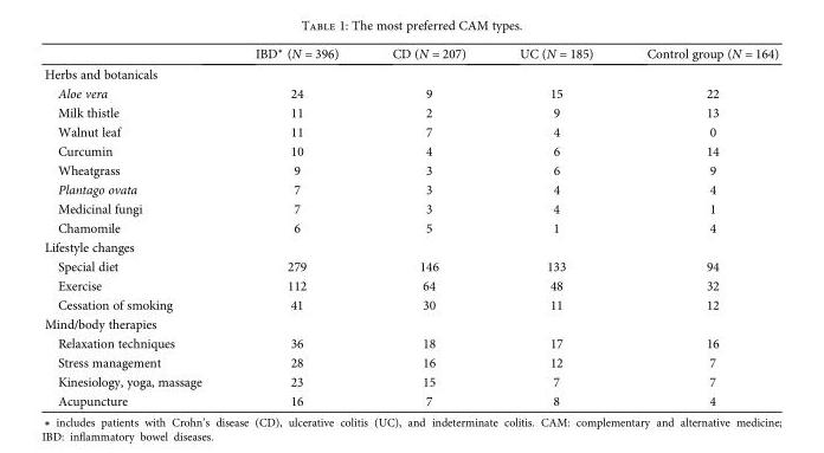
<table><thead><tr><td></td><td>IBD∗ (N = 396)</td><td>CD (N = 207)</td><td>UC (N = 185)</td><td>Control group (N = 164)</td></tr></thead><tbody><tr><td colspan="5">Herbs and botanicals</td></tr><tr><td>Aloe vera</td><td>24</td><td>9</td><td>15</td><td>22</td></tr><tr><td>Milk thistle</td><td>11</td><td>2</td><td>9</td><td>13</td></tr><tr><td>Walnut leaf</td><td>11</td><td>7</td><td>4</td><td>0</td></tr><tr><td>Curcumin</td><td>10</td><td>4</td><td>6</td><td>14</td></tr><tr><td>Wheatgrass</td><td>9</td><td>3</td><td>6</td><td>9</td></tr><tr><td>Plantago ovata</td><td>7</td><td>3</td><td>4</td><td>4</td></tr><tr><td>Medicinal fungi</td><td>7</td><td>3</td><td>4</td><td>1</td></tr><tr><td>Chamomile</td><td>6</td><td>5</td><td>1</td><td>4</td></tr><tr><td colspan="5">Lifestyle changes</td></tr><tr><td>Special diet</td><td>279</td><td>146</td><td>133</td><td>94</td></tr><tr><td>Exercise</td><td>112</td><td>64</td><td>48</td><td>32</td></tr><tr><td>Cessation of smoking</td><td>41</td><td>30</td><td>11</td><td>12</td></tr><tr><td colspan="5">Mind/body therapies</td></tr><tr><td>Relaxation techniques</td><td>36</td><td>18</td><td>17</td><td>16</td></tr><tr><td>Stress management</td><td>28</td><td>16</td><td>12</td><td>7</td></tr><tr><td>Kinesiology, yoga, massage</td><td>23</td><td>15</td><td>7</td><td>7</td></tr><tr><td>Acupuncture</td><td>16</td><td>7</td><td>8</td><td>4</td></tr></tbody></table>